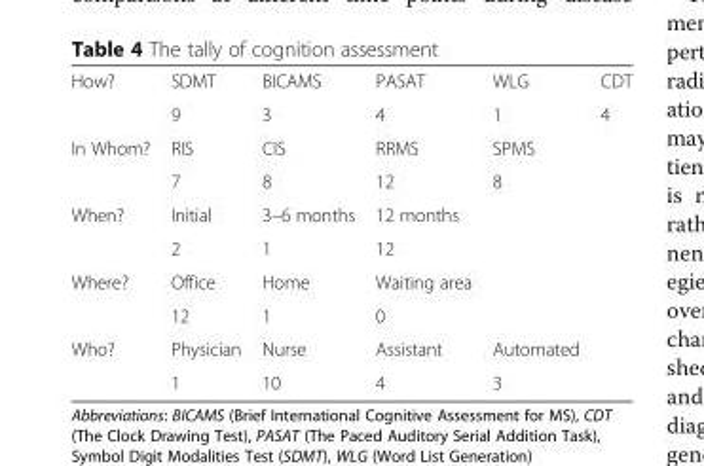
<table><tbody><tr><td rowspan="2">How?</td><td>SDMT</td><td>BICAMS</td><td>PASAT</td><td>WLG</td><td>CDT</td></tr><tr><td>9</td><td>3</td><td>4</td><td>1</td><td>4</td></tr><tr><td rowspan="2">In Whom?</td><td>RIS</td><td>CIS</td><td>RRMS</td><td>SPMS</td><td></td></tr><tr><td>7</td><td>8</td><td>12</td><td>8</td><td></td></tr><tr><td rowspan="2">When?</td><td>Initial</td><td>3–6 months</td><td>12 months</td><td></td><td></td></tr><tr><td>2</td><td>1</td><td>12</td><td></td><td></td></tr><tr><td rowspan="2">Where?</td><td>Office</td><td>Home</td><td>Waiting area</td><td></td><td></td></tr><tr><td>12</td><td>1</td><td>0</td><td></td><td></td></tr><tr><td rowspan="2">Who?</td><td>Physician</td><td>Nurse</td><td>Assistant</td><td>Automated</td><td></td></tr><tr><td>1</td><td>10</td><td>4</td><td>3</td><td></td></tr></tbody></table>